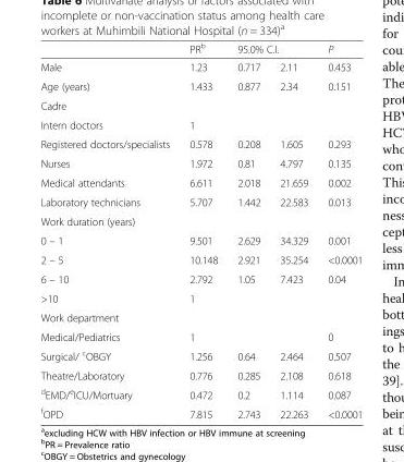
<table><thead><tr><td rowspan="2">Male</td><td rowspan="2">PR<sup>b</sup> 1.23</td><td colspan="2">95.0% C.I.</td><td rowspan="2">P 0.453</td></tr><tr><td>0.717</td><td>2.11</td></tr></thead><tbody><tr><td>Age (years)</td><td>1.433</td><td>0.877</td><td>2.34</td><td>0.151</td></tr><tr><td colspan="5">Cadre</td></tr><tr><td>Intern doctors</td><td>1</td><td></td><td></td><td></td></tr><tr><td>Registered doctors/specialists</td><td>0.578</td><td>0.208</td><td>1.605</td><td>0.293</td></tr><tr><td>Nurses</td><td>1.972</td><td>0.81</td><td>4.797</td><td>0.135</td></tr><tr><td>Medical attendants</td><td>6.611</td><td>2.018</td><td>21.659</td><td>0.002</td></tr><tr><td>Laboratory technicians</td><td>5.707</td><td>1.442</td><td>22.583</td><td>0.013</td></tr><tr><td colspan="5">Work duration (years)</td></tr><tr><td>0 – 1</td><td>9.501</td><td>2.629</td><td>34.329</td><td>0.001</td></tr><tr><td>2 – 5</td><td>10.148</td><td>2.921</td><td>35.254</td><td>&lt;0.0001</td></tr><tr><td>6 – 10</td><td>2.792</td><td>1.05</td><td>7.423</td><td>0.04</td></tr><tr><td>&gt;10</td><td>1</td><td></td><td></td><td></td></tr><tr><td colspan="5">Work department</td></tr><tr><td>Medical/Pediatrics</td><td>1</td><td></td><td></td><td>0</td></tr><tr><td>Surgical/ <sup>c</sup>OBGY</td><td>1.256</td><td>0.64</td><td>2.464</td><td>0.507</td></tr><tr><td>Theatre/Laboratory</td><td>0.776</td><td>0.285</td><td>2.108</td><td>0.618</td></tr><tr><td><sup>d</sup>EMD/<sup>e</sup>ICU/Mortuary</td><td>0.472</td><td>0.2</td><td>1.114</td><td>0.087</td></tr><tr><td><sup>f</sup>OPD</td><td>7.815</td><td>2.743</td><td>22.263</td><td>&lt;0.0001</td></tr></tbody></table>